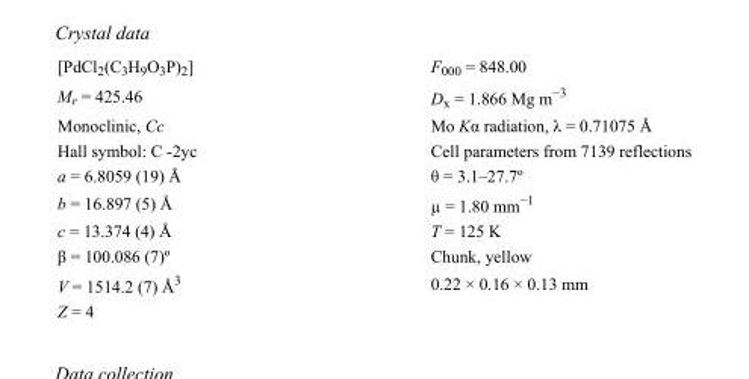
<table><tbody><tr><td>[PdCl<sub>2</sub>(C<sub>3</sub>H<sub>9</sub>O<sub>3</sub>P)<sub>2</sub>]</td><td>F000 = 848.00</td></tr><tr><td>M<sub>r</sub> = 425.46</td><td>D<sub>x</sub> = 1.866 Mg m<sup>−3</sup></td></tr><tr><td>Monoclinic, Cc</td><td>Mo Kα radiation, λ = 0.71075 Å</td></tr><tr><td>Hall symbol: C -2yc</td><td>Cell parameters from 7139 reflections</td></tr><tr><td>a = 6.8059 (19) Å</td><td>θ = 3.1–27.7º</td></tr><tr><td>b = 16.897 (5) Å</td><td>µ = 1.80 mm<sup>−1</sup></td></tr><tr><td>c = 13.374 (4) Å</td><td>T = 125 K</td></tr><tr><td>β = 100.086 (7)º</td><td>Chunk, yellow</td></tr><tr><td>V = 1514.2 (7) Å<sup>3</sup></td><td>0.22 × 0.16 × 0.13 mm</td></tr><tr><td>Z = 4</td><td></td></tr></tbody></table>